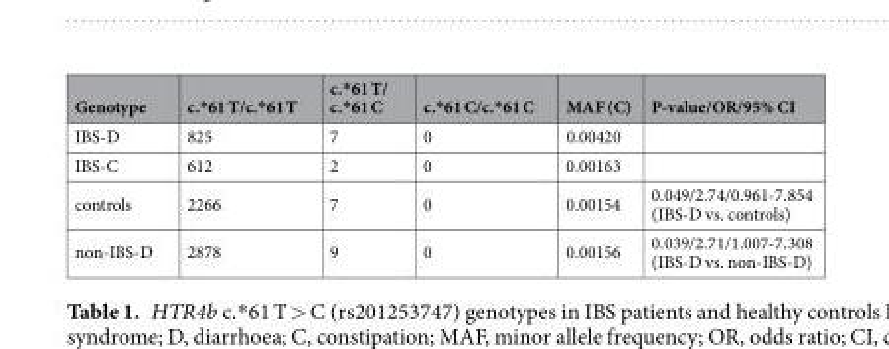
<table><thead><tr><td>Genotype</td><td>c.*61 T/c.*61 T</td><td>c.*61 T/ c.*61 C</td><td>c.*61 C/c.*61 C</td><td>MAF (C)</td><td>P-value/OR/95% CI</td></tr></thead><tbody><tr><td>IBS-D</td><td>825</td><td>7</td><td>0</td><td>0.00420</td><td></td></tr><tr><td>IBS-C</td><td>612</td><td>2</td><td>0</td><td>0.00163</td><td></td></tr><tr><td>controls</td><td>2266</td><td>7</td><td>0</td><td>0.00154</td><td>0.049/2.74/0.961-7.854 (IBS-D vs. controls)</td></tr><tr><td>non-IBS-D</td><td>2878</td><td>9</td><td>0</td><td>0.00156</td><td>0.039/2.71/1.007-7.308 (IBS-D vs. non-IBS-D)</td></tr></tbody></table>